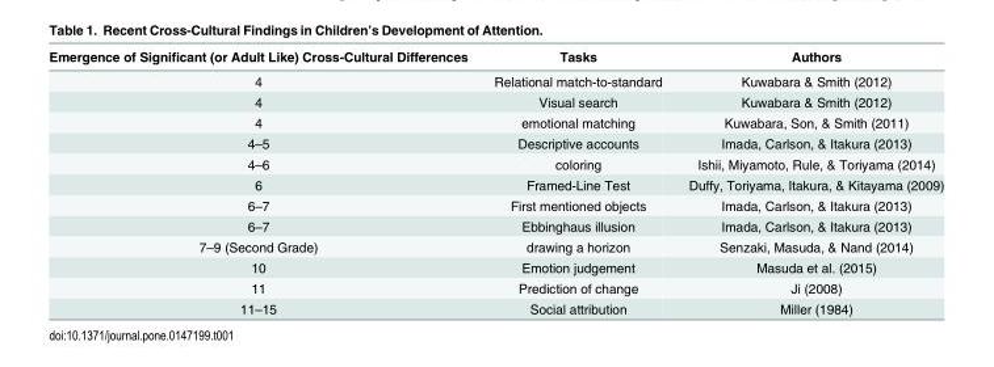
<table><thead><tr><td>Emergence of Significant (or Adult Like) Cross-Cultural Differences</td><td>Tasks</td><td>Authors</td></tr></thead><tbody><tr><td>4</td><td>Relational match-to-standard</td><td>Kuwabara &amp; Smith (2012)</td></tr><tr><td>4</td><td>Visual search</td><td>Kuwabara &amp; Smith (2012)</td></tr><tr><td>4</td><td>emotional matching</td><td>Kuwabara, Son, &amp; Smith (2011)</td></tr><tr><td>4–5</td><td>Descriptive accounts</td><td>Imada, Carlson, &amp; Itakura (2013)</td></tr><tr><td>4–6</td><td>coloring</td><td>Ishii, Miyamoto, Rule, &amp; Toriyama (2014)</td></tr><tr><td>6</td><td>Framed-Line Test</td><td>Duffy, Toriyama, Itakura, &amp; Kitayama (2009)</td></tr><tr><td>6–7</td><td>First mentioned objects</td><td>Imada, Carlson, &amp; Itakura (2013)</td></tr><tr><td>6–7</td><td>Ebbinghaus illusion</td><td>Imada, Carlson, &amp; Itakura (2013)</td></tr><tr><td>7–9 (Second Grade)</td><td>drawing a horizon</td><td>Senzaki, Masuda, &amp; Nand (2014)</td></tr><tr><td>10</td><td>Emotion judgement</td><td>Masuda et al. (2015)</td></tr><tr><td>11</td><td>Prediction of change</td><td>Ji (2008)</td></tr><tr><td>11–15</td><td>Social attribution</td><td>Miller (1984)</td></tr></tbody></table>